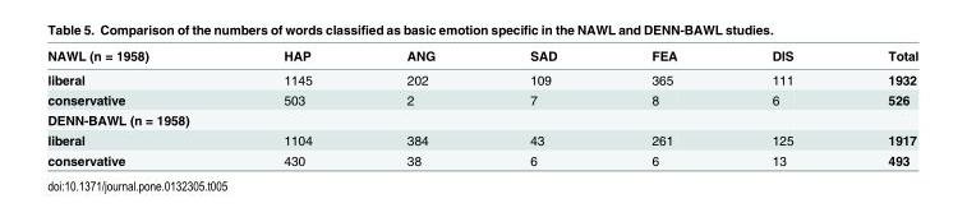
<table><thead><tr><td>NAWL (n = 1958)</td><td>HAP</td><td>ANG</td><td>SAD</td><td>FEA</td><td>DIS</td><td>Total</td></tr></thead><tbody><tr><td>liberal</td><td>1145</td><td>202</td><td>109</td><td>365</td><td>111</td><td>1932</td></tr><tr><td>conservative</td><td>503</td><td>2</td><td>7</td><td>8</td><td>6</td><td>526</td></tr><tr><td colspan="7">DENN-BAWL (n = 1958)</td></tr><tr><td>liberal</td><td>1104</td><td>384</td><td>43</td><td>261</td><td>125</td><td>1917</td></tr><tr><td>conservative</td><td>430</td><td>38</td><td>6</td><td>6</td><td>13</td><td>493</td></tr></tbody></table>